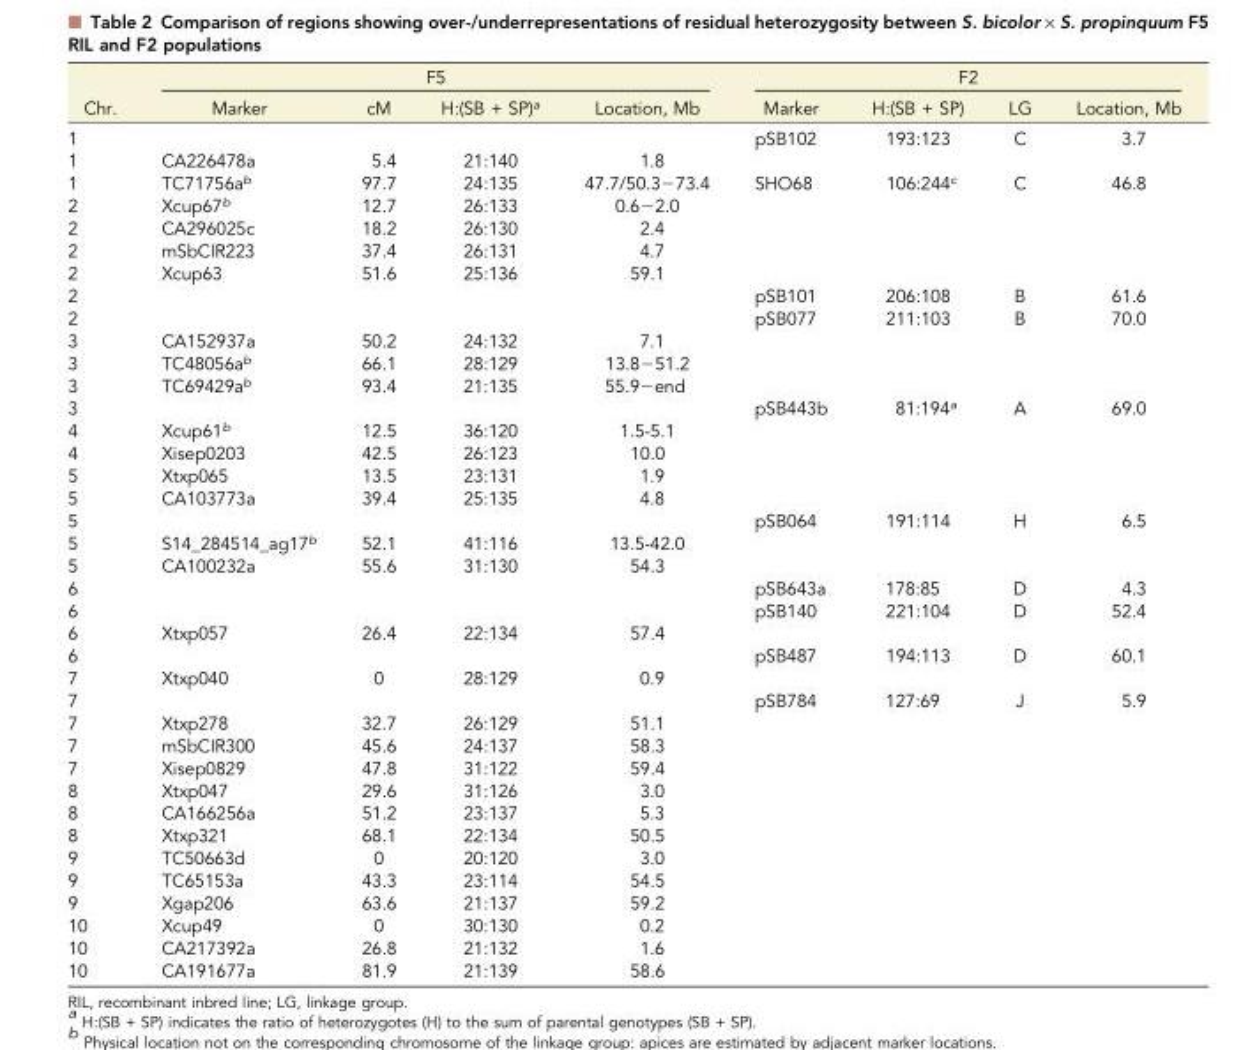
<table><thead><tr><td rowspan="2">Chr.</td><td colspan="4">F5</td><td colspan="4">F2</td></tr><tr><td>Marker</td><td>cM</td><td>H:(SB + SP)<sup>a</sup></td><td>Location, Mb</td><td>Marker</td><td>H:(SB + SP)</td><td>LG</td><td>Location, Mb</td></tr></thead><tbody><tr><td>1</td><td></td><td></td><td></td><td></td><td>pSB102</td><td>193:123</td><td>C</td><td>3.7</td></tr><tr><td>1</td><td>CA226478a</td><td>5.4</td><td>21:140</td><td>1.8</td><td></td><td></td><td></td><td></td></tr><tr><td>1</td><td>TC71756a<sup>b</sup></td><td>97.7</td><td>24:135</td><td>47.7/50.3−73.4</td><td>SHO68</td><td>106:244<sup>c</sup></td><td>C</td><td>46.8</td></tr><tr><td>2</td><td>Xcup67<sup>b</sup></td><td>12.7</td><td>26:133</td><td>0.6−2.0</td><td></td><td></td><td></td><td></td></tr><tr><td>2</td><td>CA296025c</td><td>18.2</td><td>26:130</td><td>2.4</td><td></td><td></td><td></td><td></td></tr><tr><td>2</td><td>mSbCIR223</td><td>37.4</td><td>26:131</td><td>4.7</td><td></td><td></td><td></td><td></td></tr><tr><td>2</td><td>Xcup63</td><td>51.6</td><td>25:136</td><td>59.1</td><td></td><td></td><td></td><td></td></tr><tr><td>2</td><td></td><td></td><td></td><td></td><td>pSB101</td><td>206:108</td><td>B</td><td>61.6</td></tr><tr><td>2</td><td></td><td></td><td></td><td></td><td>pSB077</td><td>211:103</td><td>B</td><td>70.0</td></tr><tr><td>3</td><td>CA152937a</td><td>50.2</td><td>24:132</td><td>7.1</td><td></td><td></td><td></td><td></td></tr><tr><td>3</td><td>TC48056a<sup>b</sup></td><td>66.1</td><td>28:129</td><td>13.8−51.2</td><td></td><td></td><td></td><td></td></tr><tr><td>3</td><td>TC69429a<sup>b</sup></td><td>93.4</td><td>21:135</td><td>55.9−end</td><td></td><td></td><td></td><td></td></tr><tr><td>3</td><td></td><td></td><td></td><td></td><td>pSB443b</td><td>81:194<sup>a</sup></td><td>A</td><td>69.0</td></tr><tr><td>4</td><td>Xcup61<sup>b</sup></td><td>12.5</td><td>36:120</td><td>1.5-5.1</td><td></td><td></td><td></td><td></td></tr><tr><td>4</td><td>Xisep0203</td><td>42.5</td><td>26:123</td><td>10.0</td><td></td><td></td><td></td><td></td></tr><tr><td>5</td><td>Xtxp065</td><td>13.5</td><td>23:131</td><td>1.9</td><td></td><td></td><td></td><td></td></tr><tr><td>5</td><td>CA103773a</td><td>39.4</td><td>25:135</td><td>4.8</td><td></td><td></td><td></td><td></td></tr><tr><td>5</td><td></td><td></td><td></td><td></td><td>pSB064</td><td>191:114</td><td>H</td><td>6.5</td></tr><tr><td>5</td><td>S14_284514_ag17<sup>b</sup></td><td>52.1</td><td>41:116</td><td>13.5-42.0</td><td></td><td></td><td></td><td></td></tr><tr><td>5</td><td>CA100232a</td><td>55.6</td><td>31:130</td><td>54.3</td><td></td><td></td><td></td><td></td></tr><tr><td>6</td><td></td><td></td><td></td><td></td><td>pSB643a</td><td>178:85</td><td>D</td><td>4.3</td></tr><tr><td>6</td><td></td><td></td><td></td><td></td><td>pSB140</td><td>221:104</td><td>D</td><td>52.4</td></tr><tr><td>6</td><td>Xtxp057</td><td>26.4</td><td>22:134</td><td>57.4</td><td></td><td></td><td></td><td></td></tr><tr><td>6</td><td></td><td></td><td></td><td></td><td>pSB487</td><td>194:113</td><td>D</td><td>60.1</td></tr><tr><td>7</td><td>Xtxp040</td><td>0</td><td>28:129</td><td>0.9</td><td></td><td></td><td></td><td></td></tr><tr><td>7</td><td></td><td></td><td></td><td></td><td>pSB784</td><td>127:69</td><td>J</td><td>5.9</td></tr><tr><td>7</td><td>Xtxp278</td><td>32.7</td><td>26:129</td><td>51.1</td><td></td><td></td><td></td><td></td></tr><tr><td>7</td><td>mSbCIR300</td><td>45.6</td><td>24:137</td><td>58.3</td><td></td><td></td><td></td><td></td></tr><tr><td>7</td><td>Xisep0829</td><td>47.8</td><td>31:122</td><td>59.4</td><td></td><td></td><td></td><td></td></tr><tr><td>8</td><td>Xtxp047</td><td>29.6</td><td>31:126</td><td>3.0</td><td></td><td></td><td></td><td></td></tr><tr><td>8</td><td>CA166256a</td><td>51.2</td><td>23:137</td><td>5.3</td><td></td><td></td><td></td><td></td></tr><tr><td>8</td><td>Xtxp321</td><td>68.1</td><td>22:134</td><td>50.5</td><td></td><td></td><td></td><td></td></tr><tr><td>9</td><td>TC50663d</td><td>0</td><td>20:120</td><td>3.0</td><td></td><td></td><td></td><td></td></tr><tr><td>9</td><td>TC65153a</td><td>43.3</td><td>23:114</td><td>54.5</td><td></td><td></td><td></td><td></td></tr><tr><td>9</td><td>Xgap206</td><td>63.6</td><td>21:137</td><td>59.2</td><td></td><td></td><td></td><td></td></tr><tr><td>10</td><td>Xcup49</td><td>0</td><td>30:130</td><td>0.2</td><td></td><td></td><td></td><td></td></tr><tr><td>10</td><td>CA217392a</td><td>26.8</td><td>21:132</td><td>1.6</td><td></td><td></td><td></td><td></td></tr><tr><td>10</td><td>CA191677a</td><td>81.9</td><td>21:139</td><td>58.6</td><td></td><td></td><td></td><td></td></tr></tbody></table>